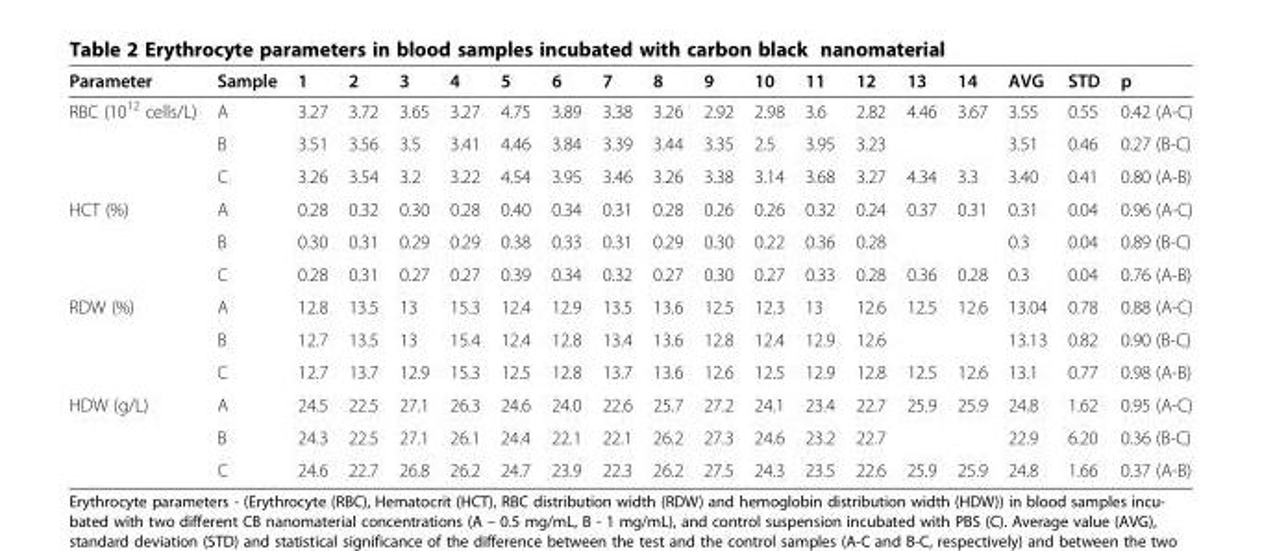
<table><thead><tr><td>Parameter</td><td>Sample</td><td>1</td><td>2</td><td>3</td><td>4</td><td>5</td><td>6</td><td>7</td><td>8</td><td>9</td><td>10</td><td>11</td><td>12</td><td>13</td><td>14</td><td>AVG</td><td>STD</td><td>p</td></tr></thead><tbody><tr><td rowspan="3">RBC (10<sup>12</sup> cells/L)</td><td>A</td><td>3.27</td><td>3.72</td><td>3.65</td><td>3.27</td><td>4.75</td><td>3.89</td><td>3.38</td><td>3.26</td><td>2.92</td><td>2.98</td><td>3.6</td><td>2.82</td><td>4.46</td><td>3.67</td><td>3.55</td><td>0.55</td><td>0.42 (A-C)</td></tr><tr><td>B</td><td>3.51</td><td>3.56</td><td>3.5</td><td>3.41</td><td>4.46</td><td>3.84</td><td>3.39</td><td>3.44</td><td>3.35</td><td>2.5</td><td>3.95</td><td>3.23</td><td></td><td></td><td>3.51</td><td>0.46</td><td>0.27 (B-C)</td></tr><tr><td>C</td><td>3.26</td><td>3.54</td><td>3.2</td><td>3.22</td><td>4.54</td><td>3.95</td><td>3.46</td><td>3.26</td><td>3.38</td><td>3.14</td><td>3.68</td><td>3.27</td><td>4.34</td><td>3.3</td><td>3.40</td><td>0.41</td><td>0.80 (A-B)</td></tr><tr><td rowspan="3">HCT (%)</td><td>A</td><td>0.28</td><td>0.32</td><td>0.30</td><td>0.28</td><td>0.40</td><td>0.34</td><td>0.31</td><td>0.28</td><td>0.26</td><td>0.26</td><td>0.32</td><td>0.24</td><td>0.37</td><td>0.31</td><td>0.31</td><td>0.04</td><td>0.96 (A-C)</td></tr><tr><td>B</td><td>0.30</td><td>0.31</td><td>0.29</td><td>0.29</td><td>0.38</td><td>0.33</td><td>0.31</td><td>0.29</td><td>0.30</td><td>0.22</td><td>0.36</td><td>0.28</td><td></td><td></td><td>0.3</td><td>0.04</td><td>0.89 (B-C)</td></tr><tr><td>C</td><td>0.28</td><td>0.31</td><td>0.27</td><td>0.27</td><td>0.39</td><td>0.34</td><td>0.32</td><td>0.27</td><td>0.30</td><td>0.27</td><td>0.33</td><td>0.28</td><td>0.36</td><td>0.28</td><td>0.3</td><td>0.04</td><td>0.76 (A-B)</td></tr><tr><td rowspan="3">RDW (%)</td><td>A</td><td>12.8</td><td>13.5</td><td>13</td><td>15.3</td><td>12.4</td><td>12.9</td><td>13.5</td><td>13.6</td><td>12.5</td><td>12.3</td><td>13</td><td>12.6</td><td>12.5</td><td>12.6</td><td>13.04</td><td>0.78</td><td>0.88 (A-C)</td></tr><tr><td>B</td><td>12.7</td><td>13.5</td><td>13</td><td>15.4</td><td>12.4</td><td>12.8</td><td>13.4</td><td>13.6</td><td>12.8</td><td>12.4</td><td>12.9</td><td>12.6</td><td></td><td></td><td>13.13</td><td>0.82</td><td>0.90 (B-C)</td></tr><tr><td>C</td><td>12.7</td><td>13.7</td><td>12.9</td><td>15.3</td><td>12.5</td><td>12.8</td><td>13.7</td><td>13.6</td><td>12.6</td><td>12.5</td><td>12.9</td><td>12.8</td><td>12.5</td><td>12.6</td><td>13.1</td><td>0.77</td><td>0.98 (A-B)</td></tr><tr><td rowspan="3">HDW (g/L)</td><td>A</td><td>24.5</td><td>22.5</td><td>27.1</td><td>26.3</td><td>24.6</td><td>24.0</td><td>22.6</td><td>25.7</td><td>27.2</td><td>24.1</td><td>23.4</td><td>22.7</td><td>25.9</td><td>25.9</td><td>24.8</td><td>1.62</td><td>0.95 (A-C)</td></tr><tr><td>B</td><td>24.3</td><td>22.5</td><td>27.1</td><td>26.1</td><td>24.4</td><td>22.1</td><td>22.1</td><td>26.2</td><td>27.3</td><td>24.6</td><td>23.2</td><td>22.7</td><td></td><td></td><td>22.9</td><td>6.20</td><td>0.36 (B-C)</td></tr><tr><td>C</td><td>24.6</td><td>22.7</td><td>26.8</td><td>26.2</td><td>24.7</td><td>23.9</td><td>22.3</td><td>26.2</td><td>27.5</td><td>24.3</td><td>23.5</td><td>22.6</td><td>25.9</td><td>25.9</td><td>24.8</td><td>1.66</td><td>0.37 (A-B)</td></tr></tbody></table>